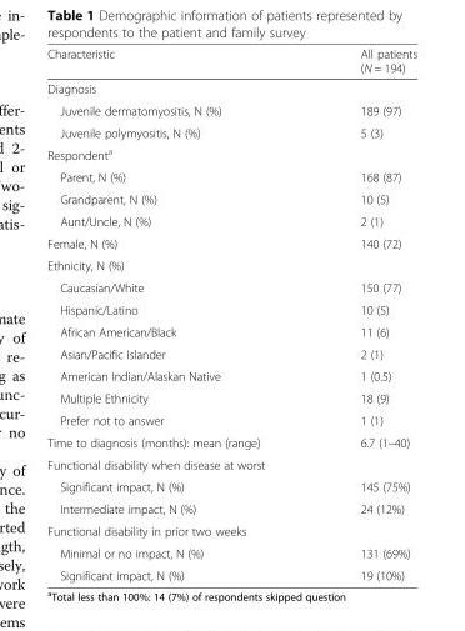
<table><thead><tr><td>Characteristic</td><td>All patients (N = 194)</td></tr></thead><tbody><tr><td colspan="2">Diagnosis</td></tr><tr><td>Juvenile dermatomyositis, N (%)</td><td>189 (97)</td></tr><tr><td>Juvenile polymyositis, N (%)</td><td>5 (3)</td></tr><tr><td colspan="2">Respondent<sup>a</sup></td></tr><tr><td>Parent, N (%)</td><td>168 (87)</td></tr><tr><td>Grandparent, N (%)</td><td>10 (5)</td></tr><tr><td>Aunt/Uncle, N (%)</td><td>2 (1)</td></tr><tr><td>Female, N (%)</td><td>140 (72)</td></tr><tr><td colspan="2">Ethnicity, N (%)</td></tr><tr><td>Caucasian/White</td><td>150 (77)</td></tr><tr><td>Hispanic/Latino</td><td>10 (5)</td></tr><tr><td>African American/Black</td><td>11 (6)</td></tr><tr><td>Asian/Pacific Islander</td><td>2 (1)</td></tr><tr><td>American Indian/Alaskan Native</td><td>1 (0.5)</td></tr><tr><td>Multiple Ethnicity</td><td>18 (9)</td></tr><tr><td>Prefer not to answer</td><td>1 (1)</td></tr><tr><td>Time to diagnosis (months): mean (range)</td><td>6.7 (1–40)</td></tr><tr><td colspan="2">Functional disability when disease at worst</td></tr><tr><td>Significant impact, N (%)</td><td>145 (75%)</td></tr><tr><td>Intermediate impact, N (%)</td><td>24 (12%)</td></tr><tr><td colspan="2">Functional disability in prior two weeks</td></tr><tr><td>Minimal or no impact, N (%)</td><td>131 (69%)</td></tr><tr><td>Significant impact, N (%)</td><td>19 (10%)</td></tr></tbody></table>